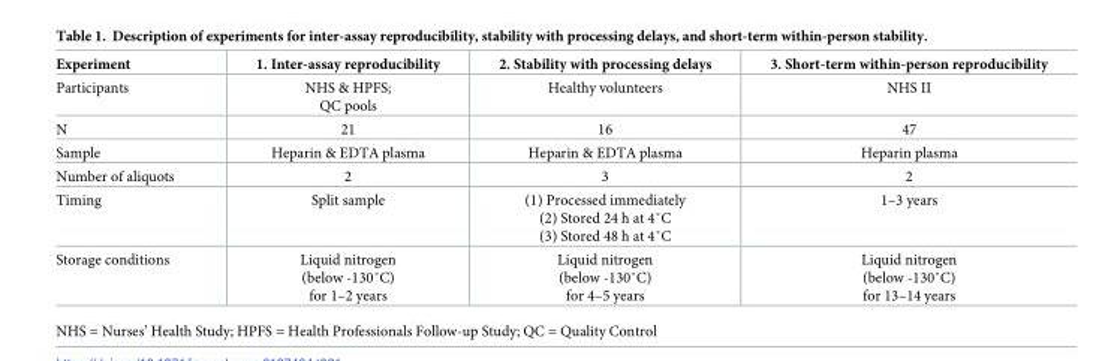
<table><thead><tr><td>Experiment</td><td>1. Inter-assay reproducibility</td><td>2. Stability with processing delays</td><td>3. Short-term within-person reproducibility</td></tr></thead><tbody><tr><td>Participants</td><td>NHS &amp; HPFS; QC pools</td><td>Healthy volunteers</td><td>NHS II</td></tr><tr><td>N</td><td>21</td><td>16</td><td>47</td></tr><tr><td>Sample</td><td>Heparin &amp; EDTA plasma</td><td>Heparin &amp; EDTA plasma</td><td>Heparin plasma</td></tr><tr><td>Number of aliquots</td><td>2</td><td>3</td><td>2</td></tr><tr><td>Timing</td><td>Split sample</td><td>(1) Processed immediately (2) Stored 24 h at 4˚C (3) Stored 48 h at 4˚C</td><td>1–3 years</td></tr><tr><td>Storage conditions</td><td>Liquid nitrogen (below -130˚C) for 1–2 years</td><td>Liquid nitrogen (below -130˚C) for 4–5 years</td><td>Liquid nitrogen (below -130˚C) for 13–14 years</td></tr></tbody></table>